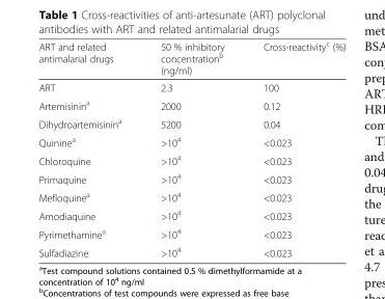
<table><thead><tr><td>ART and related antimalarial drugs</td><td>50 % inhibitory concentration<sup>b</sup> (ng/ml)</td><td>Cross-reactivity<sup>c</sup> (%)</td></tr></thead><tbody><tr><td>ART</td><td>2.3</td><td>100</td></tr><tr><td>Artemisinin<sup>a</sup></td><td>2000</td><td>0.12</td></tr><tr><td>Dihydroartemisinin<sup>a</sup></td><td>5200</td><td>0.04</td></tr><tr><td>Quinine<sup>a</sup></td><td>&gt;10<sup>4</sup></td><td>&lt;0.023</td></tr><tr><td>Chloroquine</td><td>&gt;10<sup>4</sup></td><td>&lt;0.023</td></tr><tr><td>Primaquine</td><td>&gt;10<sup>4</sup></td><td>&lt;0.023</td></tr><tr><td>Mefloquine<sup>a</sup></td><td>&gt;10<sup>4</sup></td><td>&lt;0.023</td></tr><tr><td>Amodiaquine</td><td>&gt;10<sup>4</sup></td><td>&lt;0.023</td></tr><tr><td>Pyrimethamine<sup>a</sup></td><td>&gt;10<sup>4</sup></td><td>&lt;0.023</td></tr><tr><td>Sulfadiazine</td><td>&gt;10<sup>4</sup></td><td>&lt;0.023</td></tr></tbody></table>